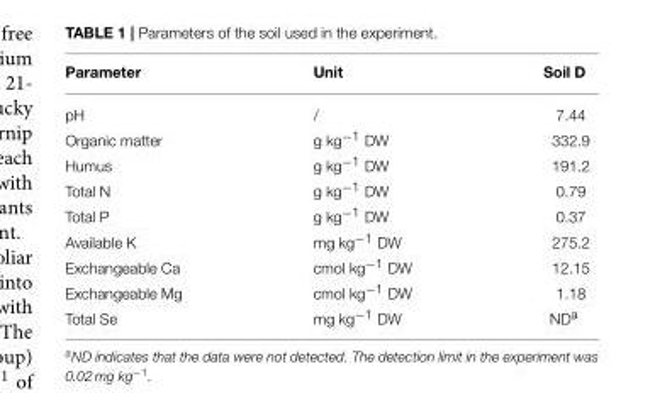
<table><thead><tr><td>Parameter</td><td>Unit</td><td>Soil D</td></tr></thead><tbody><tr><td>pH</td><td>/</td><td>7.44</td></tr><tr><td>Organic matter</td><td>g kg<sup>−1</sup> DW</td><td>332.9</td></tr><tr><td>Humus</td><td>g kg<sup>−1</sup> DW</td><td>191.2</td></tr><tr><td>Total N</td><td>g kg<sup>−1</sup> DW</td><td>0.79</td></tr><tr><td>Total P</td><td>g kg<sup>−1</sup> DW</td><td>0.37</td></tr><tr><td>Available K</td><td>mg kg<sup>−1</sup> DW</td><td>275.2</td></tr><tr><td>Exchangeable Ca</td><td>cmol kg<sup>−1</sup> DW</td><td>12.15</td></tr><tr><td>Exchangeable Mg</td><td>cmol kg<sup>−1</sup> DW</td><td>1.18</td></tr><tr><td>Total Se</td><td>mg kg<sup>−1</sup> DW</td><td>ND<sup>a</sup></td></tr></tbody></table>